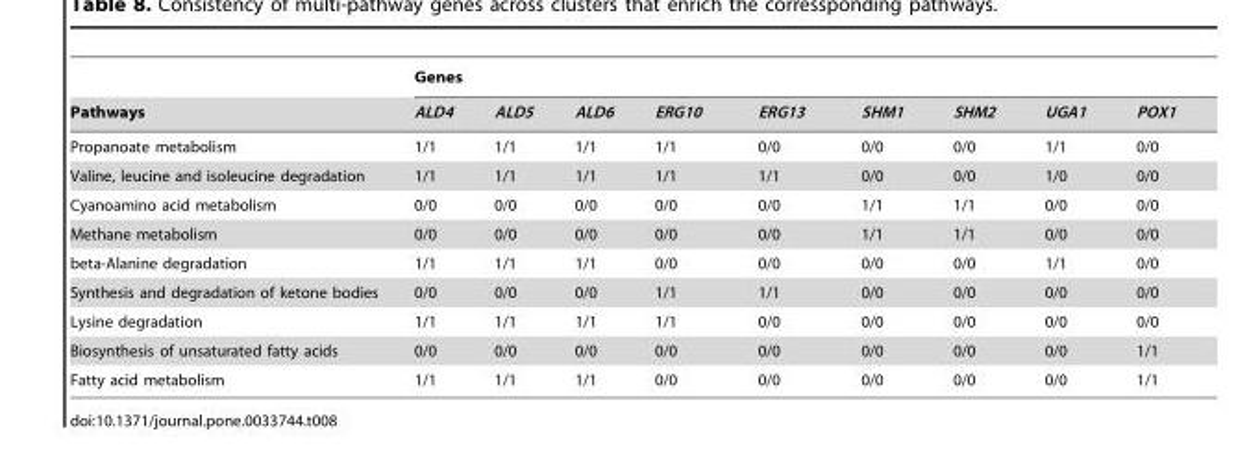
<table><thead><tr><td rowspan="2">Pathways</td><td colspan="9">Genes</td></tr><tr><td>ALD4</td><td>ALD5</td><td>ALD6</td><td>ERG10</td><td>ERG13</td><td>SHM1</td><td>SHM2</td><td>UGA1</td><td>POX1</td></tr></thead><tbody><tr><td>Propanoate metabolism</td><td>1/1</td><td>1/1</td><td>1/1</td><td>1/1</td><td>0/0</td><td>0/0</td><td>0/0</td><td>1/1</td><td>0/0</td></tr><tr><td>Valine, leucine and isoleucine degradation</td><td>1/1</td><td>1/1</td><td>1/1</td><td>1/1</td><td>1/1</td><td>0/0</td><td>0/0</td><td>1/0</td><td>0/0</td></tr><tr><td>Cyanoamino acid metabolism</td><td>0/0</td><td>0/0</td><td>0/0</td><td>0/0</td><td>0/0</td><td>1/1</td><td>1/1</td><td>0/0</td><td>0/0</td></tr><tr><td>Methane metabolism</td><td>0/0</td><td>0/0</td><td>0/0</td><td>0/0</td><td>0/0</td><td>1/1</td><td>1/1</td><td>0/0</td><td>0/0</td></tr><tr><td>beta-Alanine degradation</td><td>1/1</td><td>1/1</td><td>1/1</td><td>0/0</td><td>0/0</td><td>0/0</td><td>0/0</td><td>1/1</td><td>0/0</td></tr><tr><td>Synthesis and degradation of ketone bodies</td><td>0/0</td><td>0/0</td><td>0/0</td><td>1/1</td><td>1/1</td><td>0/0</td><td>0/0</td><td>0/0</td><td>0/0</td></tr><tr><td>Lysine degradation</td><td>1/1</td><td>1/1</td><td>1/1</td><td>1/1</td><td>0/0</td><td>0/0</td><td>0/0</td><td>0/0</td><td>0/0</td></tr><tr><td>Biosynthesis of unsaturated fatty acids</td><td>0/0</td><td>0/0</td><td>0/0</td><td>0/0</td><td>0/0</td><td>0/0</td><td>0/0</td><td>0/0</td><td>1/1</td></tr><tr><td>Fatty acid metabolism</td><td>1/1</td><td>1/1</td><td>1/1</td><td>0/0</td><td>0/0</td><td>0/0</td><td>0/0</td><td>0/0</td><td>1/1</td></tr></tbody></table>